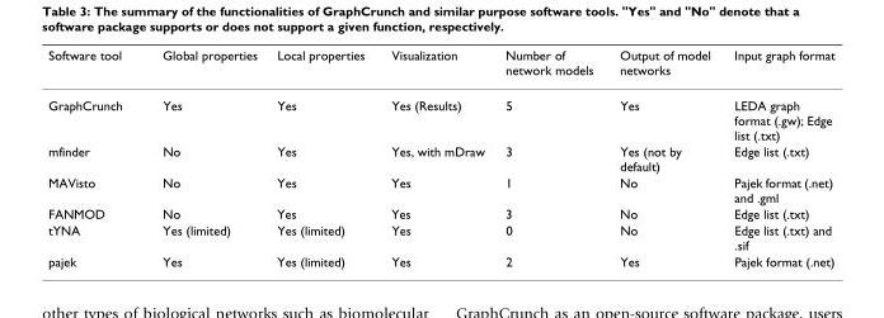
<table><thead><tr><td>Software tool</td><td>Global properties</td><td>Local properties</td><td>Visualization</td><td>Number of network models</td><td>Output of model networks</td><td>Input graph format</td></tr></thead><tbody><tr><td>GraphCrunch</td><td>Yes</td><td>Yes</td><td>Yes (Results)</td><td>5</td><td>Yes</td><td>LEDA graph format (.gw); Edge list (.txt)</td></tr><tr><td>mfinder</td><td>No</td><td>Yes</td><td>Yes, with mDraw</td><td>3</td><td>Yes (not by default)</td><td>Edge list (.txt)</td></tr><tr><td>MAVisto</td><td>No</td><td>Yes</td><td>Yes</td><td>1</td><td>No</td><td>Pajek format (.net) and .gml</td></tr><tr><td>FANMOD</td><td>No</td><td>Yes</td><td>Yes</td><td>3</td><td>No</td><td>Edge list (.txt)</td></tr><tr><td>tYNA</td><td>Yes (limited)</td><td>Yes (limited)</td><td>Yes</td><td>0</td><td>No</td><td>Edge list (.txt) and .sif</td></tr><tr><td>pajek</td><td>Yes</td><td>Yes (limited)</td><td>Yes</td><td>2</td><td>Yes</td><td>Pajek format (.net)</td></tr></tbody></table>